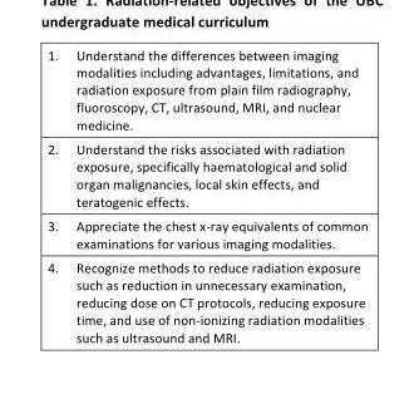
<table><tbody><tr><td>1.</td><td>Understand the differences between imaging modalities including advantages, limitations, and radiation exposure from plain film radiography, fluoroscopy, CT, ultrasound, MRI, and nuclear medicine.</td></tr><tr><td>2.</td><td>Understand the risks associated with radiation exposure, specifically haematological and solid organ malignancies, local skin effects, and teratogenic effects.</td></tr><tr><td>3.</td><td>Appreciate the chest x-ray equivalents of common examinations for various imaging modalities.</td></tr><tr><td>4.</td><td>Recognize methods to reduce radiation exposure such as reduction in unnecessary examination, reducing dose on CT protocols, reducing exposure time, and use of non-ionizing radiation modalities such as ultrasound and MRI.</td></tr></tbody></table>